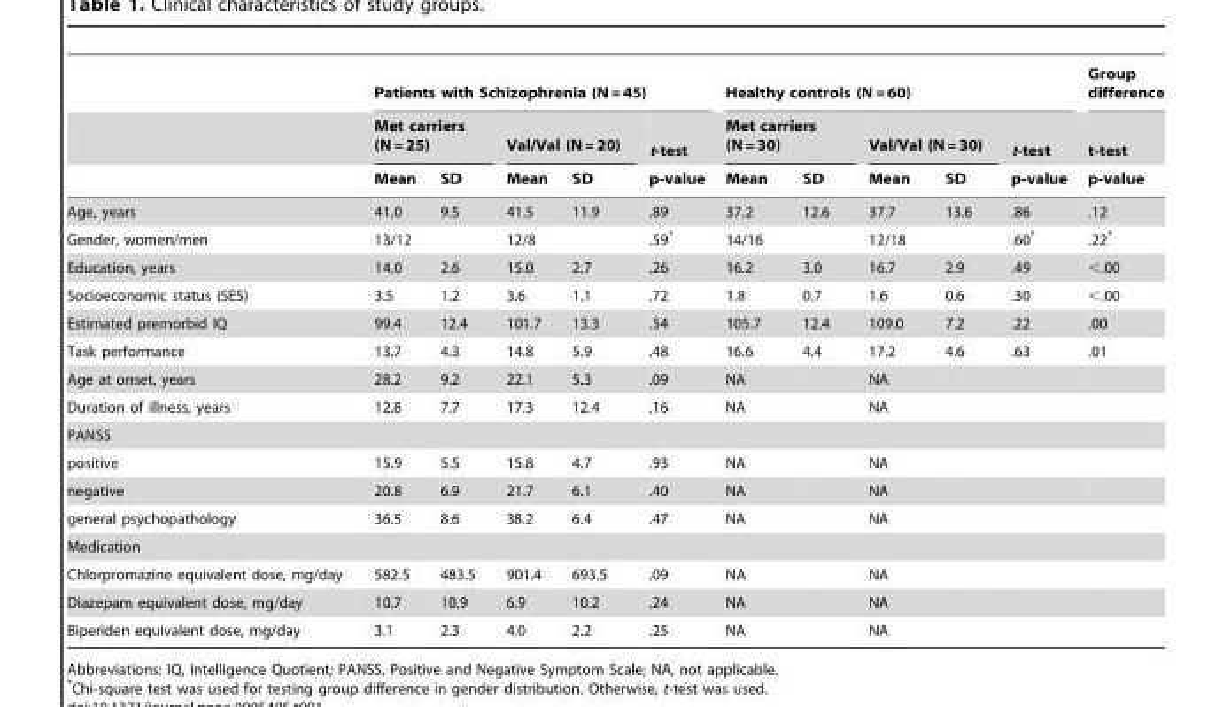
<table><thead><tr><td rowspan="3"></td><td colspan="5">Patients with Schizophrenia (N = 45)</td><td colspan="5">Healthy controls (N = 60)</td><td rowspan="3">Group difference t-test p-value</td></tr><tr><td colspan="2">Met carriers (N = 25)</td><td colspan="2">Val/Val (N = 20)</td><td rowspan="2">t-test p-value</td><td colspan="2">Met carriers (N = 30)</td><td colspan="2">Val/Val (N = 30)</td><td rowspan="2">t-test p-value</td></tr><tr><td>Mean</td><td>SD</td><td>Mean</td><td>SD</td><td>Mean</td><td>SD</td><td>Mean</td><td>SD</td></tr></thead><tbody><tr><td>Age, years</td><td>41.0</td><td>9.5</td><td>41.5</td><td>11.9</td><td>.89</td><td>37.2</td><td>12.6</td><td>37.7</td><td>13.6</td><td>.86</td><td>.12</td></tr><tr><td>Gender, women/men</td><td>13/12</td><td></td><td>12/8</td><td></td><td>.59*</td><td>14/16</td><td></td><td>12/18</td><td></td><td>.60*</td><td>.22*</td></tr><tr><td>Education, years</td><td>14.0</td><td>2.6</td><td>15.0</td><td>2.7</td><td>.26</td><td>16.2</td><td>3.0</td><td>16.7</td><td>2.9</td><td>.49</td><td>&lt;.00</td></tr><tr><td>Socioeconomic status (SES)</td><td>3.5</td><td>1.2</td><td>3.6</td><td>1.1</td><td>.72</td><td>1.8</td><td>0.7</td><td>1.6</td><td>0.6</td><td>.30</td><td>&lt;.00</td></tr><tr><td>Estimated premorbid IQ</td><td>99.4</td><td>12.4</td><td>101.7</td><td>13.3</td><td>.54</td><td>105.7</td><td>12.4</td><td>109.0</td><td>7.2</td><td>.22</td><td>.00</td></tr><tr><td>Task performance</td><td>13.7</td><td>4.3</td><td>14.8</td><td>5.9</td><td>.48</td><td>16.6</td><td>4.4</td><td>17.2</td><td>4.6</td><td>.63</td><td>.01</td></tr><tr><td>Age at onset, years</td><td>28.2</td><td>9.2</td><td>22.1</td><td>5.3</td><td>.09</td><td>NA</td><td></td><td>NA</td><td></td><td></td><td></td></tr><tr><td>Duration of illness, years</td><td>12.8</td><td>7.7</td><td>17.3</td><td>12.4</td><td>.16</td><td>NA</td><td></td><td>NA</td><td></td><td></td><td></td></tr><tr><td colspan="12">PANSS</td></tr><tr><td>positive</td><td>15.9</td><td>5.5</td><td>15.8</td><td>4.7</td><td>.93</td><td>NA</td><td></td><td>NA</td><td></td><td></td><td></td></tr><tr><td>negative</td><td>20.8</td><td>6.9</td><td>21.7</td><td>6.1</td><td>.40</td><td>NA</td><td></td><td>NA</td><td></td><td></td><td></td></tr><tr><td>general psychopathology</td><td>36.5</td><td>8.6</td><td>38.2</td><td>6.4</td><td>.47</td><td>NA</td><td></td><td>NA</td><td></td><td></td><td></td></tr><tr><td colspan="12">Medication</td></tr><tr><td>Chlorpromazine equivalent dose, mg/day</td><td>582.5</td><td>483.5</td><td>901.4</td><td>693.5</td><td>.09</td><td>NA</td><td></td><td>NA</td><td></td><td></td><td></td></tr><tr><td>Diazepam equivalent dose, mg/day</td><td>10.7</td><td>10.9</td><td>6.9</td><td>10.2</td><td>.24</td><td>NA</td><td></td><td>NA</td><td></td><td></td><td></td></tr><tr><td>Biperiden equivalent dose, mg/day</td><td>3.1</td><td>2.3</td><td>4.0</td><td>2.2</td><td>.25</td><td>NA</td><td></td><td>NA</td><td></td><td></td><td></td></tr></tbody></table>